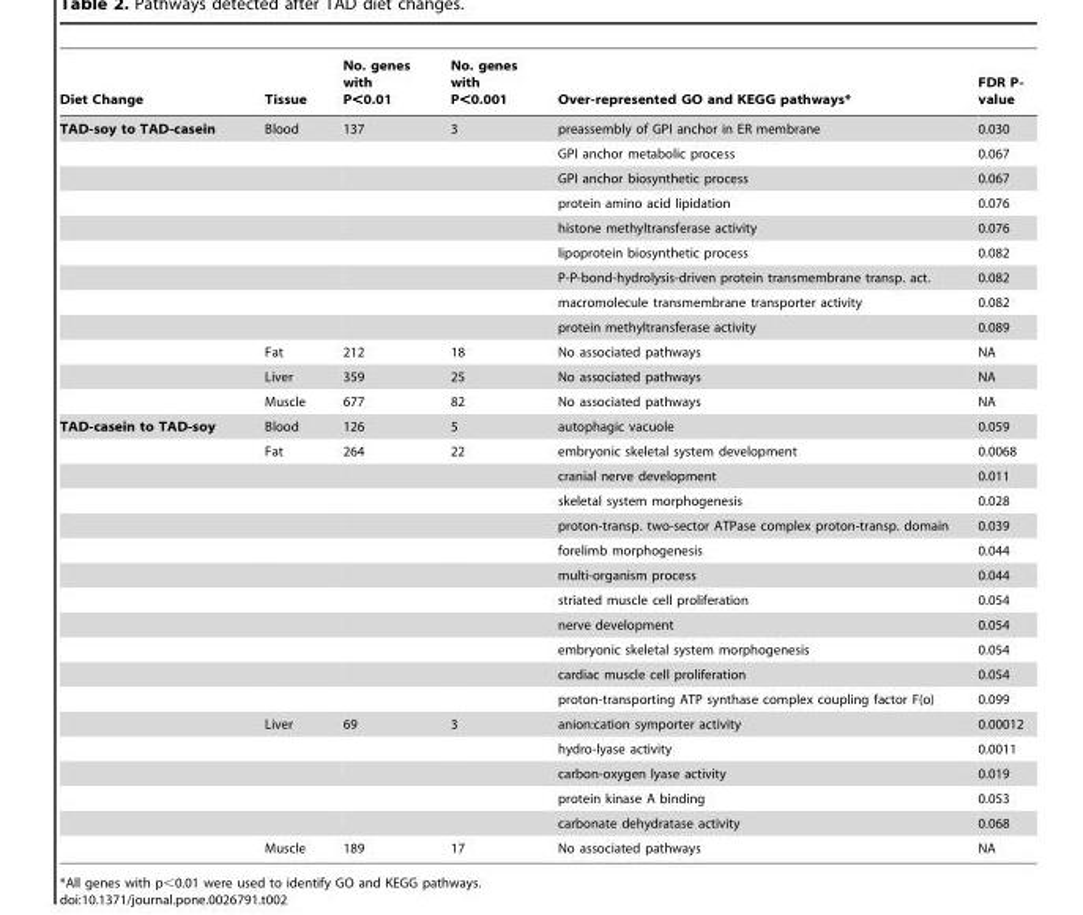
<table><thead><tr><td>Diet Change</td><td>Tissue</td><td>No. genes with P&lt;0.01</td><td>No. genes with P&lt;0.001</td><td>Over-represented GO and KEGG pathways*</td><td>FDR P- value</td></tr></thead><tbody><tr><td rowspan="12">TAD-soy to TAD-casein</td><td>Blood</td><td>137</td><td>3</td><td>preassembly of GPI anchor in ER membrane</td><td>0.030</td></tr><tr><td></td><td></td><td></td><td>GPI anchor metabolic process</td><td>0.067</td></tr><tr><td></td><td></td><td></td><td>GPI anchor biosynthetic process</td><td>0.067</td></tr><tr><td></td><td></td><td></td><td>protein amino acid lipidation</td><td>0.076</td></tr><tr><td></td><td></td><td></td><td>histone methyltransferase activity</td><td>0.076</td></tr><tr><td></td><td></td><td></td><td>lipoprotein biosynthetic process</td><td>0.082</td></tr><tr><td></td><td></td><td></td><td>P-P-bond-hydrolysis-driven protein transmembrane transp. act.</td><td>0.082</td></tr><tr><td></td><td></td><td></td><td>macromolecule transmembrane transporter activity</td><td>0.082</td></tr><tr><td></td><td></td><td></td><td>protein methyltransferase activity</td><td>0.089</td></tr><tr><td>Fat</td><td>212</td><td>18</td><td>No associated pathways</td><td>NA</td></tr><tr><td>Liver</td><td>359</td><td>25</td><td>No associated pathways</td><td>NA</td></tr><tr><td>Muscle</td><td>677</td><td>82</td><td>No associated pathways</td><td>NA</td></tr><tr><td rowspan="18">TAD-casein to TAD-soy</td><td>Blood</td><td>126</td><td>5</td><td>autophagic vacuole</td><td>0.059</td></tr><tr><td>Fat</td><td>264</td><td>22</td><td>embryonic skeletal system development</td><td>0.0068</td></tr><tr><td></td><td></td><td></td><td>cranial nerve development</td><td>0.011</td></tr><tr><td></td><td></td><td></td><td>skeletal system morphogenesis</td><td>0.028</td></tr><tr><td></td><td></td><td></td><td>proton-transp. two-sector ATPase complex proton-transp. domain</td><td>0.039</td></tr><tr><td></td><td></td><td></td><td>forelimb morphogenesis</td><td>0.044</td></tr><tr><td></td><td></td><td></td><td>multi-organism process</td><td>0.044</td></tr><tr><td></td><td></td><td></td><td>striated muscle cell proliferation</td><td>0.054</td></tr><tr><td></td><td></td><td></td><td>nerve development</td><td>0.054</td></tr><tr><td></td><td></td><td></td><td>embryonic skeletal system morphogenesis</td><td>0.054</td></tr><tr><td></td><td></td><td></td><td>cardiac muscle cell proliferation</td><td>0.054</td></tr><tr><td></td><td></td><td></td><td>proton-transporting ATP synthase complex coupling factor F(o)</td><td>0.099</td></tr><tr><td>Liver</td><td>69</td><td>3</td><td>anion:cation symporter activity</td><td>0.00012</td></tr><tr><td></td><td></td><td></td><td>hydro-lyase activity</td><td>0.0011</td></tr><tr><td></td><td></td><td></td><td>carbon-oxygen lyase activity</td><td>0.019</td></tr><tr><td></td><td></td><td></td><td>protein kinase A binding</td><td>0.053</td></tr><tr><td></td><td></td><td></td><td>carbonate dehydratase activity</td><td>0.068</td></tr><tr><td>Muscle</td><td>189</td><td>17</td><td>No associated pathways</td><td>NA</td></tr></tbody></table>